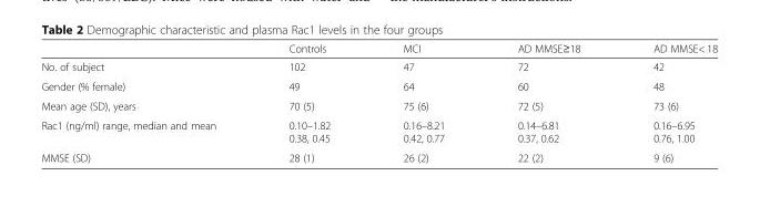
<table><thead><tr><td></td><td>Controls</td><td>MCI</td><td>AD MMSE≥18</td><td>AD MMSE&lt; 18</td></tr></thead><tbody><tr><td>No. of subject</td><td>102</td><td>47</td><td>72</td><td>42</td></tr><tr><td>Gender (% female)</td><td>49</td><td>64</td><td>60</td><td>48</td></tr><tr><td>Mean age (SD), years</td><td>70 (5)</td><td>75 (6)</td><td>72 (5)</td><td>73 (6)</td></tr><tr><td>Rac1 (ng/ml) range, median and mean</td><td>0.10–1.82 0.38, 0.45</td><td>0.16–8.21 0.42, 0.77</td><td>0.14–6.81 0.37, 0.62</td><td>0.16–6.95 0.76, 1.00</td></tr><tr><td>MMSE (SD)</td><td>28 (1)</td><td>26 (2)</td><td>22 (2)</td><td>9 (6)</td></tr></tbody></table>